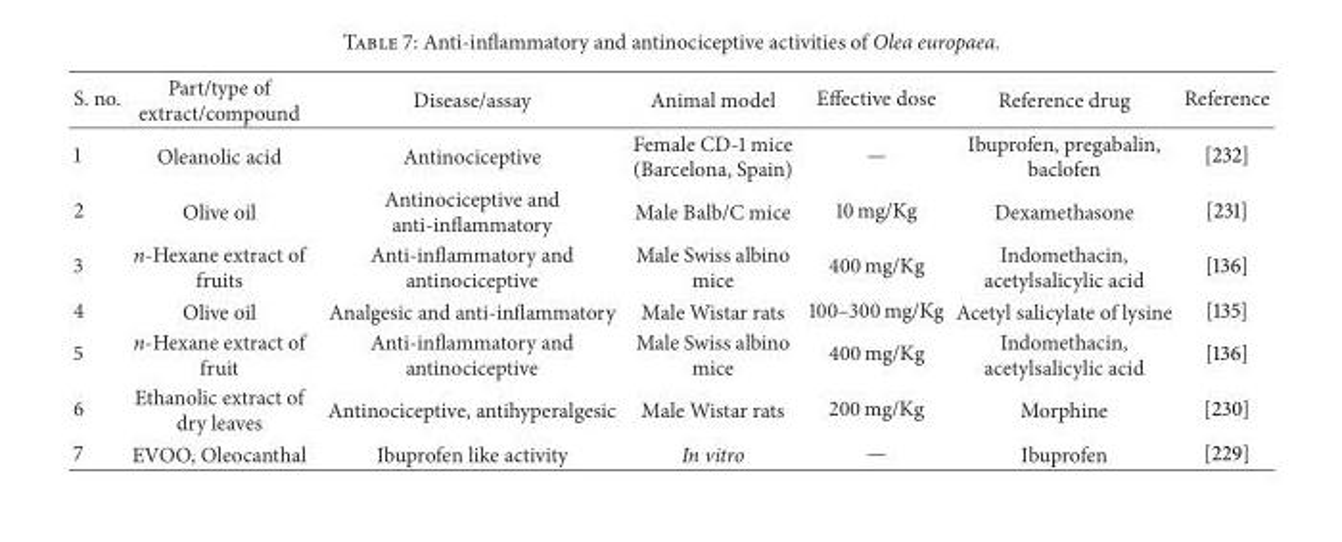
<table><thead><tr><td>S. no.</td><td>Part/type of extract/compound</td><td>Disease/assay</td><td>Animal model</td><td>Effective dose</td><td>Reference drug</td><td>Reference</td></tr></thead><tbody><tr><td>1</td><td>Oleanolic acid</td><td>Antinociceptive</td><td>Female CD-1 mice (Barcelona, Spain)</td><td>—</td><td>Ibuprofen, pregabalin, baclofen</td><td>[232]</td></tr><tr><td>2</td><td>Olive oil</td><td>Antinociceptive and anti-inflammatory</td><td>Male Balb/C mice</td><td>10 mg/Kg</td><td>Dexamethasone</td><td>[231]</td></tr><tr><td>3</td><td>n-Hexane extract of fruits</td><td>Anti-inflammatory and antinociceptive</td><td>Male Swiss albino mice</td><td>400 mg/Kg</td><td>Indomethacin, acetylsalicylic acid</td><td>[136]</td></tr><tr><td>4</td><td>Olive oil</td><td>Analgesic and anti-inflammatory</td><td>Male Wistar rats</td><td>100–300 mg/Kg</td><td>Acetyl salicylate of lysine</td><td>[135]</td></tr><tr><td>5</td><td>n-Hexane extract of fruit</td><td>Anti-inflammatory and antinociceptive</td><td>Male Swiss albino mice</td><td>400 mg/Kg</td><td>Indomethacin, acetylsalicylic acid</td><td>[136]</td></tr><tr><td>6</td><td>Ethanolic extract of dry leaves</td><td>Antinociceptive, antihyperalgesic</td><td>Male Wistar rats</td><td>200 mg/Kg</td><td>Morphine</td><td>[230]</td></tr><tr><td>7</td><td>EVOO, Oleocanthal</td><td>Ibuprofen like activity</td><td>In vitro</td><td>—</td><td>Ibuprofen</td><td>[229]</td></tr></tbody></table>